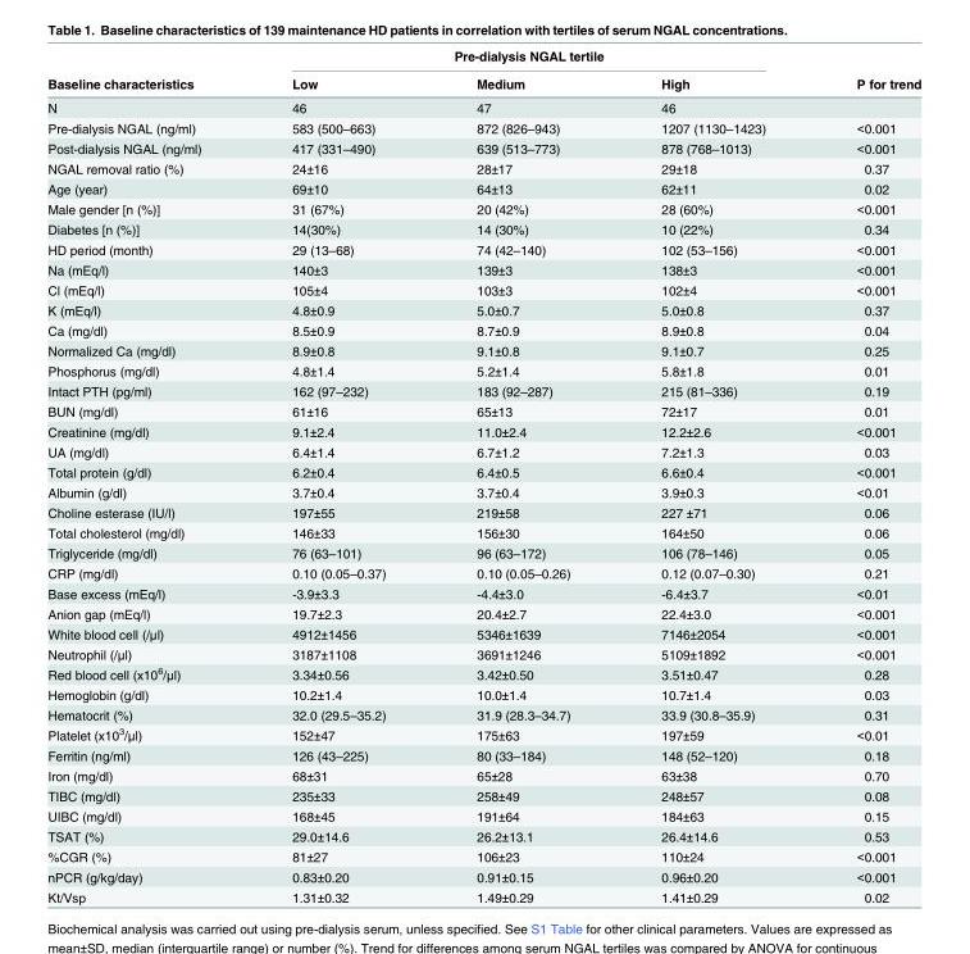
<table><thead><tr><td rowspan="2">Baseline characteristics</td><td colspan="3">Pre-dialysis NGAL tertile</td><td rowspan="2">P for trend</td></tr><tr><td>Low</td><td>Medium</td><td>High</td></tr></thead><tbody><tr><td>N</td><td>46</td><td>47</td><td>46</td><td></td></tr><tr><td>Pre-dialysis NGAL (ng/ml)</td><td>583 (500–663)</td><td>872 (826–943)</td><td>1207 (1130–1423)</td><td>&lt;0.001</td></tr><tr><td>Post-dialysis NGAL (ng/ml)</td><td>417 (331–490)</td><td>639 (513–773)</td><td>878 (768–1013)</td><td>&lt;0.001</td></tr><tr><td>NGAL removal ratio (%)</td><td>24±16</td><td>28±17</td><td>29±18</td><td>0.37</td></tr><tr><td>Age (year)</td><td>69±10</td><td>64±13</td><td>62±11</td><td>0.02</td></tr><tr><td>Male gender [n (%)]</td><td>31 (67%)</td><td>20 (42%)</td><td>28 (60%)</td><td>&lt;0.001</td></tr><tr><td>Diabetes [n (%)]</td><td>14(30%)</td><td>14 (30%)</td><td>10 (22%)</td><td>0.34</td></tr><tr><td>HD period (month)</td><td>29 (13–68)</td><td>74 (42–140)</td><td>102 (53–156)</td><td>&lt;0.001</td></tr><tr><td>Na (mEq/l)</td><td>140±3</td><td>139±3</td><td>138±3</td><td>&lt;0.001</td></tr><tr><td>Cl (mEq/l)</td><td>105±4</td><td>103±3</td><td>102±4</td><td>&lt;0.001</td></tr><tr><td>K (mEq/l)</td><td>4.8±0.9</td><td>5.0±0.7</td><td>5.0±0.8</td><td>0.37</td></tr><tr><td>Ca (mg/dl)</td><td>8.5±0.9</td><td>8.7±0.9</td><td>8.9±0.8</td><td>0.04</td></tr><tr><td>Normalized Ca (mg/dl)</td><td>8.9±0.8</td><td>9.1±0.8</td><td>9.1±0.7</td><td>0.25</td></tr><tr><td>Phosphorus (mg/dl)</td><td>4.8±1.4</td><td>5.2±1.4</td><td>5.8±1.8</td><td>0.01</td></tr><tr><td>Intact PTH (pg/ml)</td><td>162 (97–232)</td><td>183 (92–287)</td><td>215 (81–336)</td><td>0.19</td></tr><tr><td>BUN (mg/dl)</td><td>61±16</td><td>65±13</td><td>72±17</td><td>0.01</td></tr><tr><td>Creatinine (mg/dl)</td><td>9.1±2.4</td><td>11.0±2.4</td><td>12.2±2.6</td><td>&lt;0.001</td></tr><tr><td>UA (mg/dl)</td><td>6.4±1.4</td><td>6.7±1.2</td><td>7.2±1.3</td><td>0.03</td></tr><tr><td>Total protein (g/dl)</td><td>6.2±0.4</td><td>6.4±0.5</td><td>6.6±0.4</td><td>&lt;0.001</td></tr><tr><td>Albumin (g/dl)</td><td>3.7±0.4</td><td>3.7±0.4</td><td>3.9±0.3</td><td>&lt;0.01</td></tr><tr><td>Choline esterase (IU/l)</td><td>197±55</td><td>219±58</td><td>227 ±71</td><td>0.06</td></tr><tr><td>Total cholesterol (mg/dl)</td><td>146±33</td><td>156±30</td><td>164±50</td><td>0.06</td></tr><tr><td>Triglyceride (mg/dl)</td><td>76 (63–101)</td><td>96 (63–172)</td><td>106 (78–146)</td><td>0.05</td></tr><tr><td>CRP (mg/dl)</td><td>0.10 (0.05–0.37)</td><td>0.10 (0.05–0.26)</td><td>0.12 (0.07–0.30)</td><td>0.21</td></tr><tr><td>Base excess (mEq/l)</td><td>-3.9±3.3</td><td>-4.4±3.0</td><td>-6.4±3.7</td><td>&lt;0.01</td></tr><tr><td>Anion gap (mEq/l)</td><td>19.7±2.3</td><td>20.4±2.7</td><td>22.4±3.0</td><td>&lt;0.001</td></tr><tr><td>White blood cell (/μl)</td><td>4912±1456</td><td>5346±1639</td><td>7146±2054</td><td>&lt;0.001</td></tr><tr><td>Neutrophil (/μl)</td><td>3187±1108</td><td>3691±1246</td><td>5109±1892</td><td>&lt;0.001</td></tr><tr><td>Red blood cell (x10<sup>6</sup>/μl)</td><td>3.34±0.56</td><td>3.42±0.50</td><td>3.51±0.47</td><td>0.28</td></tr><tr><td>Hemoglobin (g/dl)</td><td>10.2±1.4</td><td>10.0±1.4</td><td>10.7±1.4</td><td>0.03</td></tr><tr><td>Hematocrit (%)</td><td>32.0 (29.5–35.2)</td><td>31.9 (28.3–34.7)</td><td>33.9 (30.8–35.9)</td><td>0.31</td></tr><tr><td>Platelet (x10<sup>3</sup>/μl)</td><td>152±47</td><td>175±63</td><td>197±59</td><td>&lt;0.01</td></tr><tr><td>Ferritin (ng/ml)</td><td>126 (43–225)</td><td>80 (33–184)</td><td>148 (52–120)</td><td>0.18</td></tr><tr><td>Iron (mg/dl)</td><td>68±31</td><td>65±28</td><td>63±38</td><td>0.70</td></tr><tr><td>TIBC (mg/dl)</td><td>235±33</td><td>258±49</td><td>248±57</td><td>0.08</td></tr><tr><td>UIBC (mg/dl)</td><td>168±45</td><td>191±64</td><td>184±63</td><td>0.15</td></tr><tr><td>TSAT (%)</td><td>29.0±14.6</td><td>26.2±13.1</td><td>26.4±14.6</td><td>0.53</td></tr><tr><td>%CGR (%)</td><td>81±27</td><td>106±23</td><td>110±24</td><td>&lt;0.001</td></tr><tr><td>nPCR (g/kg/day)</td><td>0.83±0.20</td><td>0.91±0.15</td><td>0.96±0.20</td><td>&lt;0.001</td></tr><tr><td>Kt/Vsp</td><td>1.31±0.32</td><td>1.49±0.29</td><td>1.41±0.29</td><td>0.02</td></tr></tbody></table>